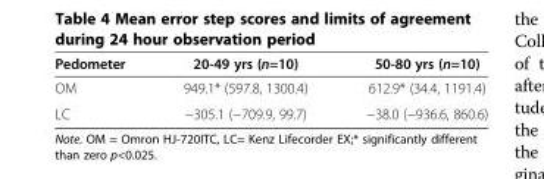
<table><thead><tr><td>Pedometer</td><td>20-49 yrs (n=10)</td><td>50-80 yrs (n=10)</td></tr></thead><tbody><tr><td>OM</td><td>949.1* (597.8, 1300.4)</td><td>612.9* (34.4, 1191.4)</td></tr><tr><td>LC</td><td>−305.1 (−709.9, 99.7)</td><td>−38.0 (−936.6, 860.6)</td></tr></tbody></table>